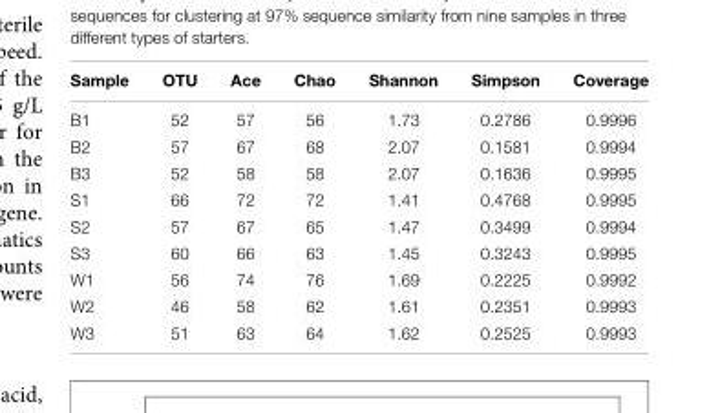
<table><thead><tr><td>Sample</td><td>OTU</td><td>Ace</td><td>Chao</td><td>Shannon</td><td>Simpson</td><td>Coverage</td></tr></thead><tbody><tr><td>B1</td><td>52</td><td>57</td><td>56</td><td>1.73</td><td>0.2786</td><td>0.9996</td></tr><tr><td>B2</td><td>57</td><td>67</td><td>68</td><td>2.07</td><td>0.1581</td><td>0.9994</td></tr><tr><td>B3</td><td>52</td><td>58</td><td>58</td><td>2.07</td><td>0.1636</td><td>0.9995</td></tr><tr><td>S1</td><td>66</td><td>72</td><td>72</td><td>1.41</td><td>0.4768</td><td>0.9995</td></tr><tr><td>S2</td><td>57</td><td>67</td><td>65</td><td>1.47</td><td>0.3499</td><td>0.9994</td></tr><tr><td>S3</td><td>60</td><td>66</td><td>63</td><td>1.45</td><td>0.3243</td><td>0.9995</td></tr><tr><td>W1</td><td>56</td><td>74</td><td>76</td><td>1.69</td><td>0.2225</td><td>0.9992</td></tr><tr><td>W2</td><td>46</td><td>58</td><td>62</td><td>1.61</td><td>0.2351</td><td>0.9993</td></tr><tr><td>W3</td><td>51</td><td>63</td><td>64</td><td>1.62</td><td>0.2525</td><td>0.9993</td></tr></tbody></table>